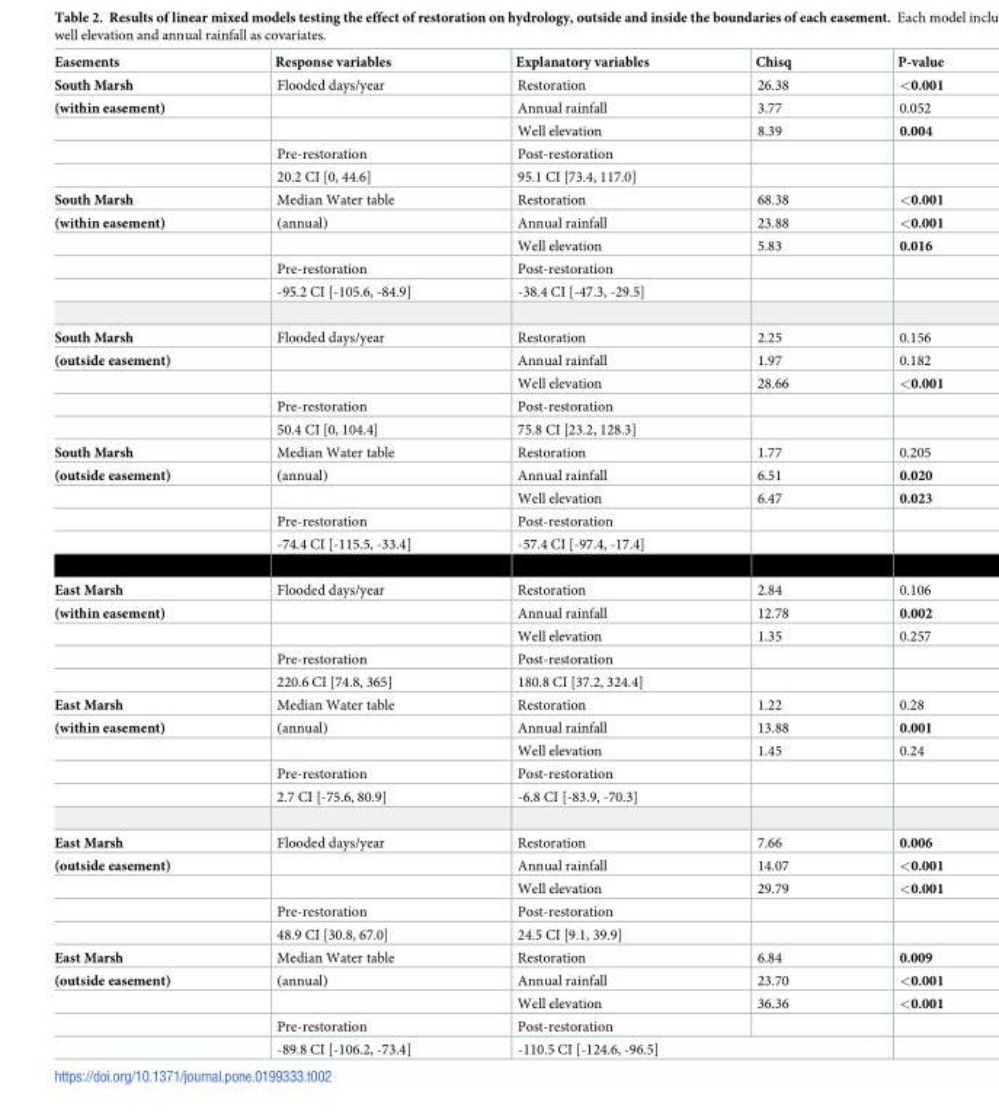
<table><thead><tr><td>Easements</td><td>Response variables</td><td>Explanatory variables</td><td>Chisq</td><td>P-value</td></tr></thead><tbody><tr><td>South Marsh</td><td>Flooded days/year</td><td>Restoration</td><td>26.38</td><td>&lt;0.001</td></tr><tr><td rowspan="4">(within easement)</td><td></td><td>Annual rainfall</td><td>3.77</td><td>0.052</td></tr><tr><td></td><td>Well elevation</td><td>8.39</td><td>0.004</td></tr><tr><td>Pre-restoration</td><td>Post-restoration</td><td></td><td></td></tr><tr><td>20.2 CI [0, 44.6]</td><td>95.1 CI [73.4, 117.0]</td><td></td><td></td></tr><tr><td>South Marsh</td><td>Median Water table</td><td>Restoration</td><td>68.38</td><td>&lt;0.001</td></tr><tr><td rowspan="4">(within easement)</td><td>(annual)</td><td>Annual rainfall</td><td>23.88</td><td>&lt;0.001</td></tr><tr><td></td><td>Well elevation</td><td>5.83</td><td>0.016</td></tr><tr><td>Pre-restoration</td><td>Post-restoration</td><td></td><td></td></tr><tr><td>-95.2 CI [-105.6, -84.9]</td><td>-38.4 CI [-47.3, -29.5]</td><td></td><td></td></tr><tr><td>South Marsh</td><td>Flooded days/year</td><td>Restoration</td><td>2.25</td><td>0.156</td></tr><tr><td rowspan="4">(outside easement)</td><td></td><td>Annual rainfall</td><td>1.97</td><td>0.182</td></tr><tr><td></td><td>Well elevation</td><td>28.66</td><td>&lt;0.001</td></tr><tr><td>Pre-restoration</td><td>Post-restoration</td><td></td><td></td></tr><tr><td>50.4 CI [0, 104.4]</td><td>75.8 CI [23.2, 128.3]</td><td></td><td></td></tr><tr><td>South Marsh</td><td>Median Water table</td><td>Restoration</td><td>1.77</td><td>0.205</td></tr><tr><td rowspan="4">(outside easement)</td><td>(annual)</td><td>Annual rainfall</td><td>6.51</td><td>0.020</td></tr><tr><td></td><td>Well elevation</td><td>6.47</td><td>0.023</td></tr><tr><td>Pre-restoration</td><td>Post-restoration</td><td></td><td></td></tr><tr><td>-74.4 CI [-115.5, -33.4]</td><td>-57.4 CI [-97.4, -17.4]</td><td></td><td></td></tr><tr><td>East Marsh</td><td>Flooded days/year</td><td>Restoration</td><td>2.84</td><td>0.106</td></tr><tr><td rowspan="4">(within easement)</td><td></td><td>Annual rainfall</td><td>12.78</td><td>0.002</td></tr><tr><td></td><td>Well elevation</td><td>1.35</td><td>0.257</td></tr><tr><td>Pre-restoration</td><td>Post-restoration</td><td></td><td></td></tr><tr><td>220.6 CI [74.8, 365]</td><td>180.8 CI [37.2, 324.4]</td><td></td><td></td></tr><tr><td>East Marsh</td><td>Median Water table</td><td>Restoration</td><td>1.22</td><td>0.28</td></tr><tr><td rowspan="4">(within easement)</td><td>(annual)</td><td>Annual rainfall</td><td>13.88</td><td>0.001</td></tr><tr><td></td><td>Well elevation</td><td>1.45</td><td>0.24</td></tr><tr><td>Pre-restoration</td><td>Post-restoration</td><td></td><td></td></tr><tr><td>2.7 CI [-75.6, 80.9]</td><td>-6.8 CI [-83.9, -70.3]</td><td></td><td></td></tr><tr><td>East Marsh</td><td>Flooded days/year</td><td>Restoration</td><td>7.66</td><td>0.006</td></tr><tr><td rowspan="4">(outside easement)</td><td></td><td>Annual rainfall</td><td>14.07</td><td>&lt;0.001</td></tr><tr><td></td><td>Well elevation</td><td>29.79</td><td>&lt;0.001</td></tr><tr><td>Pre-restoration</td><td>Post-restoration</td><td></td><td></td></tr><tr><td>48.9 CI [30.8, 67.0]</td><td>24.5 CI [9.1, 39.9]</td><td></td><td></td></tr><tr><td>East Marsh</td><td>Median Water table</td><td>Restoration</td><td>6.84</td><td>0.009</td></tr><tr><td rowspan="4">(outside easement)</td><td>(annual)</td><td>Annual rainfall</td><td>23.70</td><td>&lt;0.001</td></tr><tr><td></td><td>Well elevation</td><td>36.36</td><td>&lt;0.001</td></tr><tr><td>Pre-restoration</td><td>Post-restoration</td><td></td><td></td></tr><tr><td>-89.8 CI [-106.2, -73.4]</td><td colspan="2">-110.5 CI [-124.6, -96.5]</td><td></td></tr></tbody></table>